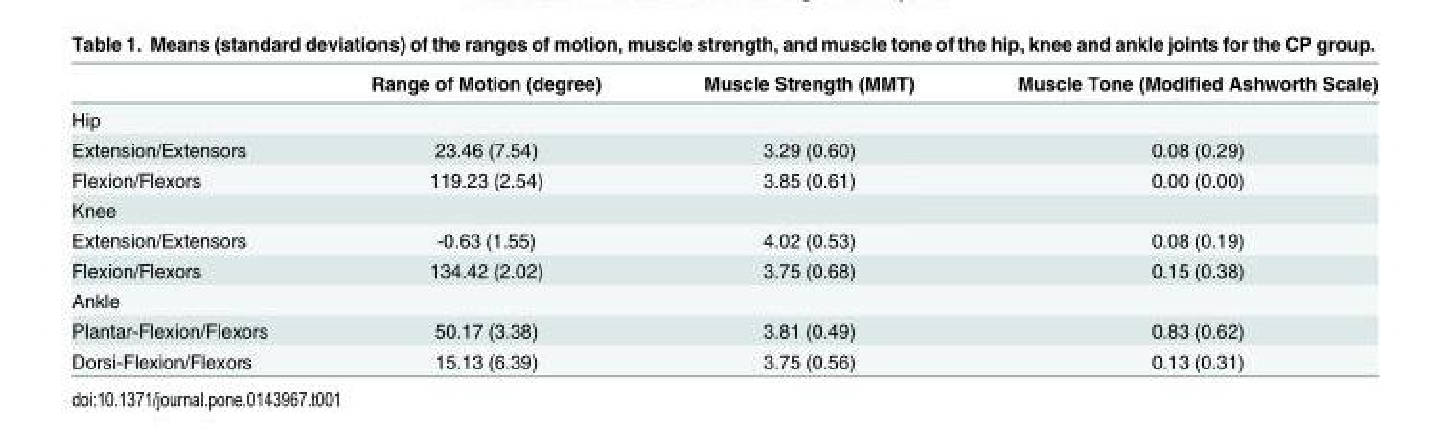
<table><thead><tr><td></td><td>Range of Motion (degree)</td><td>Muscle Strength (MMT)</td><td>Muscle Tone (Modified Ashworth Scale)</td></tr></thead><tbody><tr><td colspan="4">Hip</td></tr><tr><td>Extension/Extensors</td><td>23.46 (7.54)</td><td>3.29 (0.60)</td><td>0.08 (0.29)</td></tr><tr><td>Flexion/Flexors</td><td>119.23 (2.54)</td><td>3.85 (0.61)</td><td>0.00 (0.00)</td></tr><tr><td colspan="4">Knee</td></tr><tr><td>Extension/Extensors</td><td>-0.63 (1.55)</td><td>4.02 (0.53)</td><td>0.08 (0.19)</td></tr><tr><td>Flexion/Flexors</td><td>134.42 (2.02)</td><td>3.75 (0.68)</td><td>0.15 (0.38)</td></tr><tr><td colspan="4">Ankle</td></tr><tr><td>Plantar-Flexion/Flexors</td><td>50.17 (3.38)</td><td>3.81 (0.49)</td><td>0.83 (0.62)</td></tr><tr><td>Dorsi-Flexion/Flexors</td><td>15.13 (6.39)</td><td>3.75 (0.56)</td><td>0.13 (0.31)</td></tr></tbody></table>